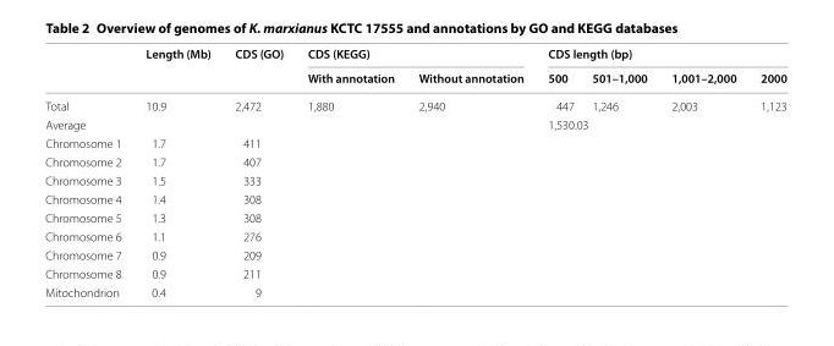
<table><thead><tr><td rowspan="2"></td><td rowspan="2">Length (Mb)</td><td rowspan="2">CDS (GO)</td><td colspan="2">CDS (KEGG)</td><td colspan="4">CDS length (bp)</td></tr><tr><td>With annotation</td><td>Without annotation</td><td>500</td><td>501–1,000</td><td>1,001–2,000</td><td>2000</td></tr></thead><tbody><tr><td>Total</td><td>10.9</td><td>2,472</td><td>1,880</td><td>2,940</td><td>447</td><td>1,246</td><td>2,003</td><td>1,123</td></tr><tr><td>Average</td><td></td><td></td><td></td><td></td><td colspan="4">1,530.03</td></tr><tr><td>Chromosome 1</td><td>1.7</td><td>411</td><td></td><td></td><td></td><td></td><td></td><td></td></tr><tr><td>Chromosome 2</td><td>1.7</td><td>407</td><td></td><td></td><td></td><td></td><td></td><td></td></tr><tr><td>Chromosome 3</td><td>1.5</td><td>333</td><td></td><td></td><td></td><td></td><td></td><td></td></tr><tr><td>Chromosome 4</td><td>1.4</td><td>308</td><td></td><td></td><td></td><td></td><td></td><td></td></tr><tr><td>Chromosome 5</td><td>1.3</td><td>308</td><td></td><td></td><td></td><td></td><td></td><td></td></tr><tr><td>Chromosome 6</td><td>1.1</td><td>276</td><td></td><td></td><td></td><td></td><td></td><td></td></tr><tr><td>Chromosome 7</td><td>0.9</td><td>209</td><td></td><td></td><td></td><td></td><td></td><td></td></tr><tr><td>Chromosome 8</td><td>0.9</td><td>211</td><td></td><td></td><td></td><td></td><td></td><td></td></tr><tr><td>Mitochondrion</td><td>0.4</td><td>9</td><td></td><td></td><td></td><td></td><td></td><td></td></tr></tbody></table>